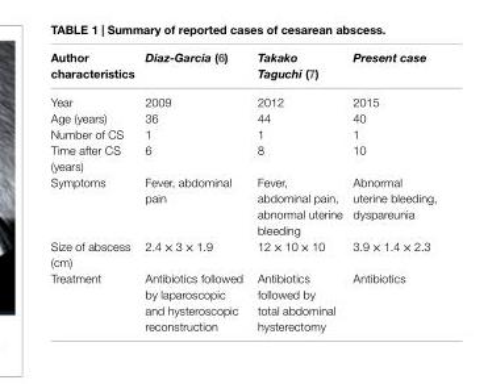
<table><thead><tr><td>author characteristics</td><td>Diaz-Garcia (6)</td><td>Takako Taguchi (7)</td><td>Present case</td></tr></thead><tbody><tr><td>Year</td><td>2009</td><td>2012</td><td>2015</td></tr><tr><td>Age (years)</td><td>36</td><td>44</td><td>40</td></tr><tr><td>Number of CS</td><td>1</td><td>1</td><td>1</td></tr><tr><td>Time after CS (years)</td><td>6</td><td>8</td><td>10</td></tr><tr><td>Symptoms</td><td>Fever, abdominal pain</td><td>Fever, abdominal pain, abnormal uterine bleeding</td><td>Abnormal uterine bleeding, dyspareunia</td></tr><tr><td>Size of abscess (cm)</td><td>2.4 × 3 × 1.9</td><td>12 × 10 × 10</td><td>3.9 × 1.4 × 2.3</td></tr><tr><td>Treatment</td><td>Antibiotics followed by laparoscopic and hysteroscopic reconstruction</td><td>Antibiotics followed by total abdominal hysterectomy</td><td>Antibiotics</td></tr></tbody></table>